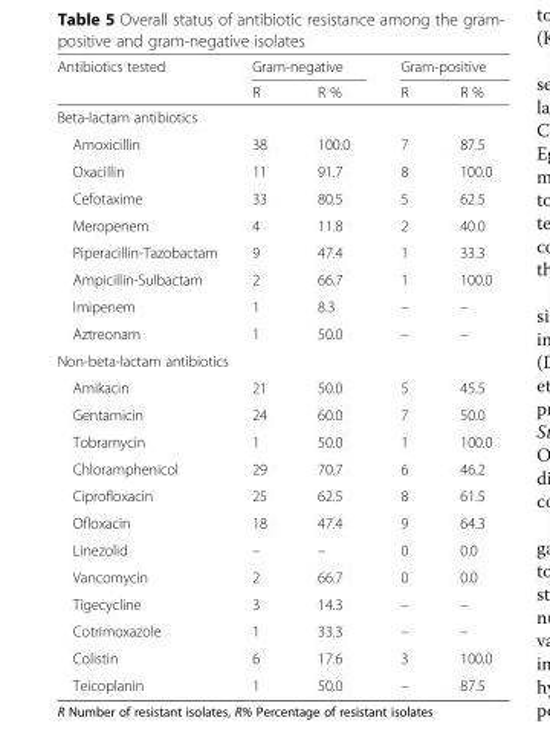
<table><thead><tr><td rowspan="2">Antibiotics tested</td><td colspan="2">Gram-negative</td><td colspan="2">Gram-positive</td></tr><tr><td>R</td><td>R %</td><td>R</td><td>R %</td></tr></thead><tbody><tr><td colspan="5">Beta-lactam antibiotics</td></tr><tr><td>Amoxicillin</td><td>38</td><td>100.0</td><td>7</td><td>87.5</td></tr><tr><td>Oxacillin</td><td>11</td><td>91.7</td><td>8</td><td>100.0</td></tr><tr><td>Cefotaxime</td><td>33</td><td>80.5</td><td>5</td><td>62.5</td></tr><tr><td>Meropenem</td><td>4</td><td>11.8</td><td>2</td><td>40.0</td></tr><tr><td>Piperacillin-Tazobactam</td><td>9</td><td>47.4</td><td>1</td><td>33.3</td></tr><tr><td>Ampicillin-Sulbactam</td><td>2</td><td>66.7</td><td>1</td><td>100.0</td></tr><tr><td>Imipenem</td><td>1</td><td>8.3</td><td>–</td><td>–</td></tr><tr><td>Aztreonam</td><td>1</td><td>50.0</td><td>–</td><td>–</td></tr><tr><td colspan="5">Non-beta-lactam antibiotics</td></tr><tr><td>Amikacin</td><td>21</td><td>50.0</td><td>5</td><td>45.5</td></tr><tr><td>Gentamicin</td><td>24</td><td>60.0</td><td>7</td><td>50.0</td></tr><tr><td>Tobramycin</td><td>1</td><td>50.0</td><td>1</td><td>100.0</td></tr><tr><td>Chloramphenicol</td><td>29</td><td>70.7</td><td>6</td><td>46.2</td></tr><tr><td>Ciprofloxacin</td><td>25</td><td>62.5</td><td>8</td><td>61.5</td></tr><tr><td>Ofloxacin</td><td>18</td><td>47.4</td><td>9</td><td>64.3</td></tr><tr><td>Linezolid</td><td>–</td><td>–</td><td>0</td><td>0.0</td></tr><tr><td>Vancomycin</td><td>2</td><td>66.7</td><td>0</td><td>0.0</td></tr><tr><td>Tigecycline</td><td>3</td><td>14.3</td><td>–</td><td>–</td></tr><tr><td>Cotrimoxazole</td><td>1</td><td>33.3</td><td>–</td><td>–</td></tr><tr><td>Colistin</td><td>6</td><td>17.6</td><td>3</td><td>100.0</td></tr><tr><td>Teicoplanin</td><td>1</td><td>50.0</td><td>–</td><td>87.5</td></tr></tbody></table>